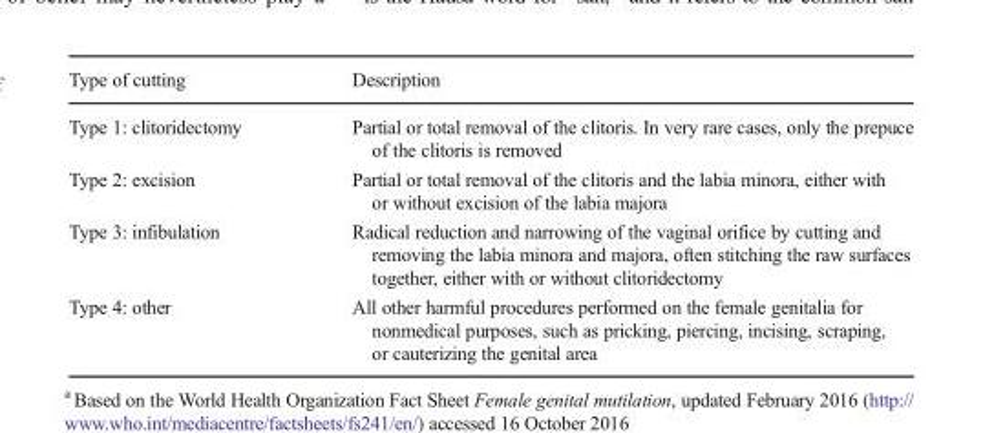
<table><thead><tr><td>Type of cutting</td><td>Description</td></tr></thead><tbody><tr><td>Type 1: clitoridectomy</td><td>Partial or total removal of the clitoris. In very rare cases, only the prepuce of the clitoris is removed</td></tr><tr><td>Type 2: excision</td><td>Partial or total removal of the clitoris and the labia minora, either with or without excision of the labia majora</td></tr><tr><td>Type 3: infibulation</td><td>Radical reduction and narrowing of the vaginal orifice by cutting and removing the labia minora and majora, often stitching the raw surfaces together, either with or without clitoridectomy</td></tr><tr><td>Type 4: other</td><td>All other harmful procedures performed on the female genitalia for nonmedical purposes, such as pricking, piercing, incising, scraping, or cauterizing the genital area</td></tr></tbody></table>